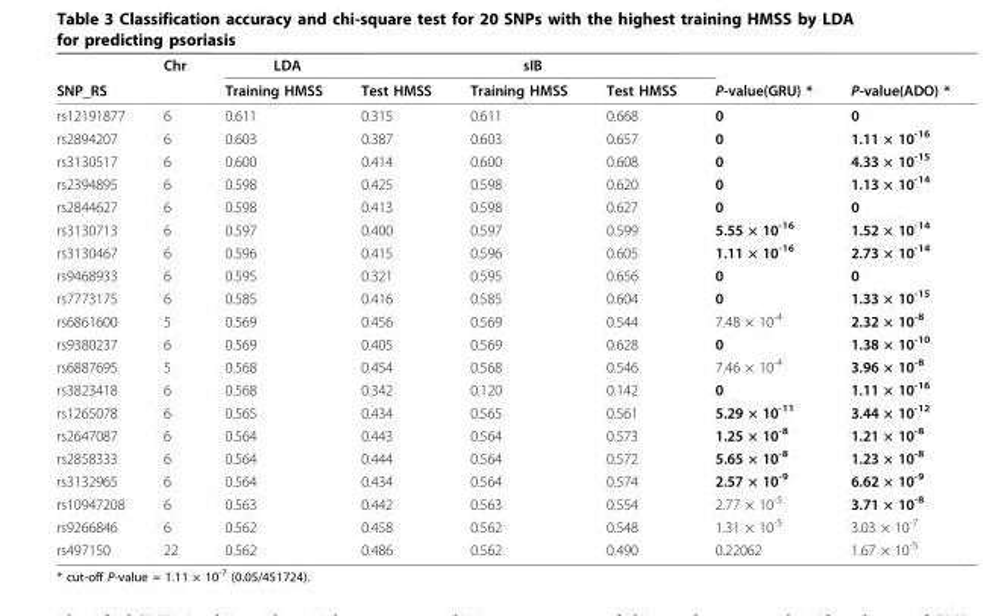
<table><thead><tr><td rowspan="2">SNP_RS</td><td rowspan="2">Chr</td><td rowspan="2">LDA Training HMSS</td><td rowspan="2">Test HMSS</td><td rowspan="2">sIB Training HMSS</td><td rowspan="2">Test HMSS</td><td rowspan="2">P-value(GRU) *</td><td rowspan="2">P-value(ADO) *</td></tr><tr></tr></thead><tbody><tr><td>rs12191877</td><td>6</td><td>0.611</td><td>0.315</td><td>0.611</td><td>0.668</td><td>0</td><td>0</td></tr><tr><td>rs2894207</td><td>6</td><td>0.603</td><td>0.387</td><td>0.603</td><td>0.657</td><td>0</td><td>1.11 × 10<sup>-16</sup></td></tr><tr><td>rs3130517</td><td>6</td><td>0.600</td><td>0.414</td><td>0.600</td><td>0.608</td><td>0</td><td>4.33 × 10<sup>-15</sup></td></tr><tr><td>rs2394895</td><td>6</td><td>0.598</td><td>0.425</td><td>0.598</td><td>0.620</td><td>0</td><td>1.13 × 10<sup>-14</sup></td></tr><tr><td>rs2844627</td><td>6</td><td>0.598</td><td>0.413</td><td>0.598</td><td>0.627</td><td>0</td><td>0</td></tr><tr><td>rs3130713</td><td>6</td><td>0.597</td><td>0.400</td><td>0.597</td><td>0.599</td><td>5.55 × 10<sup>-16</sup></td><td>1.52 × 10<sup>-14</sup></td></tr><tr><td>rs3130467</td><td>6</td><td>0.596</td><td>0.415</td><td>0.596</td><td>0.605</td><td>1.11 × 10<sup>-16</sup></td><td>2.73 × 10<sup>-14</sup></td></tr><tr><td>rs9468933</td><td>6</td><td>0.595</td><td>0.321</td><td>0.595</td><td>0.656</td><td>0</td><td>0</td></tr><tr><td>rs7773175</td><td>6</td><td>0.585</td><td>0.416</td><td>0.585</td><td>0.604</td><td>0</td><td>1.33 × 10<sup>-15</sup></td></tr><tr><td>rs6861600</td><td>5</td><td>0.569</td><td>0.456</td><td>0.569</td><td>0.544</td><td>7.48 × 10<sup>-4</sup></td><td>2.32 × 10<sup>-8</sup></td></tr><tr><td>rs9380237</td><td>6</td><td>0.569</td><td>0.405</td><td>0.569</td><td>0.628</td><td>0</td><td>1.38 × 10<sup>-10</sup></td></tr><tr><td>rs6887695</td><td>5</td><td>0.568</td><td>0.454</td><td>0.568</td><td>0.546</td><td>7.46 × 10<sup>-4</sup></td><td>3.96 × 10<sup>-8</sup></td></tr><tr><td>rs3823418</td><td>6</td><td>0.568</td><td>0.342</td><td>0.120</td><td>0.142</td><td>0</td><td>1.11 × 10<sup>-16</sup></td></tr><tr><td>rs1265078</td><td>6</td><td>0.565</td><td>0.434</td><td>0.565</td><td>0.561</td><td>5.29 × 10<sup>-11</sup></td><td>3.44 × 10<sup>-12</sup></td></tr><tr><td>rs2647087</td><td>6</td><td>0.564</td><td>0.443</td><td>0.564</td><td>0.573</td><td>1.25 × 10<sup>-8</sup></td><td>1.21 × 10<sup>-8</sup></td></tr><tr><td>rs2858333</td><td>6</td><td>0.564</td><td>0.444</td><td>0.564</td><td>0.572</td><td>5.65 × 10<sup>-8</sup></td><td>1.23 × 10<sup>-8</sup></td></tr><tr><td>rs3132965</td><td>6</td><td>0.564</td><td>0.434</td><td>0.564</td><td>0.574</td><td>2.57 × 10<sup>-9</sup></td><td>6.62 × 10<sup>-9</sup></td></tr><tr><td>rs10947208</td><td>6</td><td>0.563</td><td>0.442</td><td>0.563</td><td>0.554</td><td>2.77 × 10<sup>-5</sup></td><td>3.71 × 10<sup>-8</sup></td></tr><tr><td>rs9266846</td><td>6</td><td>0.562</td><td>0.458</td><td>0.562</td><td>0.548</td><td>1.31 × 10<sup>-5</sup></td><td>3.03 × 10<sup>-7</sup></td></tr><tr><td>rs497150</td><td>22</td><td>0.562</td><td>0.486</td><td>0.562</td><td>0.490</td><td>0.22062</td><td>1.67 × 10<sup>-5</sup></td></tr></tbody></table>